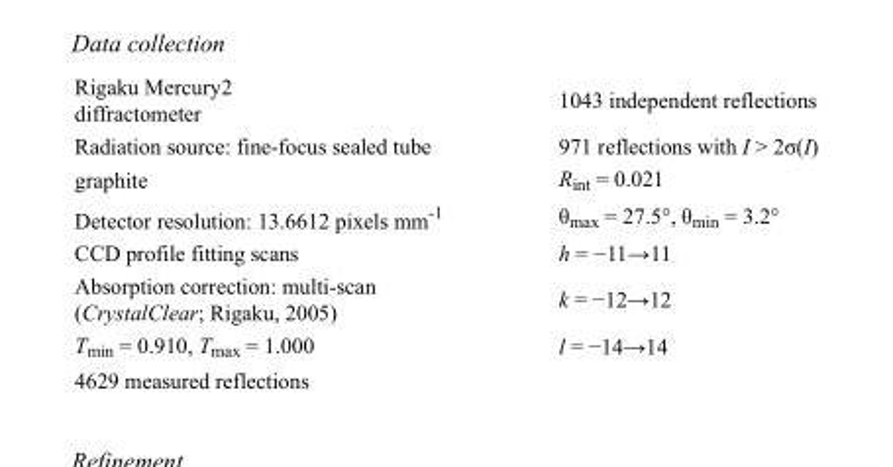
<table><tbody><tr><td>Rigaku Mercury2 diffractometer</td><td>1043 independent reflections</td></tr><tr><td>Radiation source: fine-focus sealed tube</td><td>971 reflections with I &gt; 2σ(I)</td></tr><tr><td>graphite</td><td>R<sub>int</sub> = 0.021</td></tr><tr><td>Detector resolution: 13.6612 pixels mm<sup>-1</sup></td><td>θ<sub>max</sub> = 27.5°, θ<sub>min</sub> = 3.2°</td></tr><tr><td>CCD profile fitting scans</td><td>h = −11→11</td></tr><tr><td>Absorption correction: multi-scan (CrystalClear; Rigaku, 2005)</td><td>k = −12→12</td></tr><tr><td>T<sub>min</sub> = 0.910, T<sub>max</sub> = 1.000</td><td>l = −14→14</td></tr><tr><td>4629 measured reflections</td><td></td></tr></tbody></table>